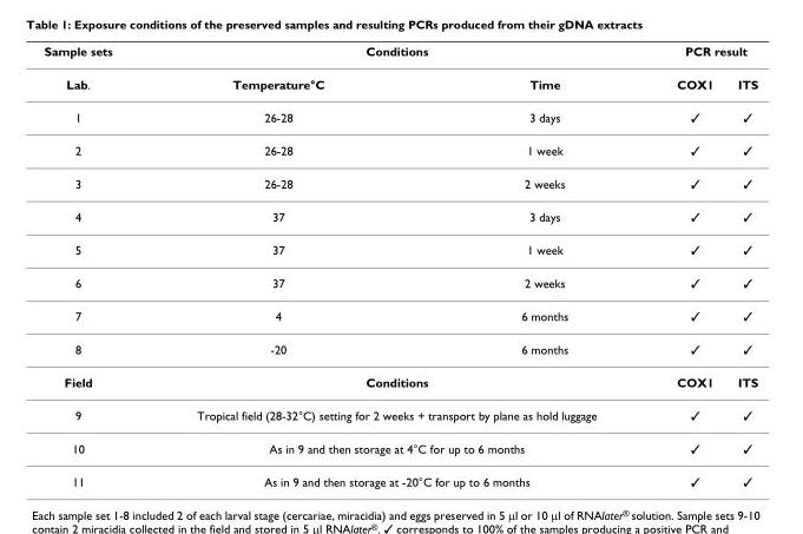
<table><thead><tr><td rowspan="2">Sample sets Lab.</td><td colspan="2">Conditions</td><td colspan="2">PCR result</td></tr><tr><td>Temperature°C</td><td>Time</td><td>COX1</td><td>ITS</td></tr></thead><tbody><tr><td>1</td><td>26-28</td><td>3 days</td><td>✓</td><td>✓</td></tr><tr><td>2</td><td>26-28</td><td>1 week</td><td>✓</td><td>✓</td></tr><tr><td>3</td><td>26-28</td><td>2 weeks</td><td>✓</td><td>✓</td></tr><tr><td>4</td><td>37</td><td>3 days</td><td>✓</td><td>✓</td></tr><tr><td>5</td><td>37</td><td>1 week</td><td>✓</td><td>✓</td></tr><tr><td>6</td><td>37</td><td>2 weeks</td><td>✓</td><td>✓</td></tr><tr><td>7</td><td>4</td><td>6 months</td><td>✓</td><td>✓</td></tr><tr><td>8</td><td>-20</td><td>6 months</td><td>✓</td><td>✓</td></tr><tr><td>Field</td><td colspan="2">Conditions</td><td>COX1</td><td>ITS</td></tr><tr><td>9</td><td colspan="2">Tropical field (28-32°C) setting for 2 weeks + transport by plane as hold luggage</td><td>✓</td><td>✓</td></tr><tr><td>10</td><td colspan="2">As in 9 and then storage at 4°C for up to 6 months</td><td>✓</td><td>✓</td></tr><tr><td>11</td><td colspan="2">As in 9 and then storage at -20°C for up to 6 months</td><td>✓</td><td>✓</td></tr></tbody></table>